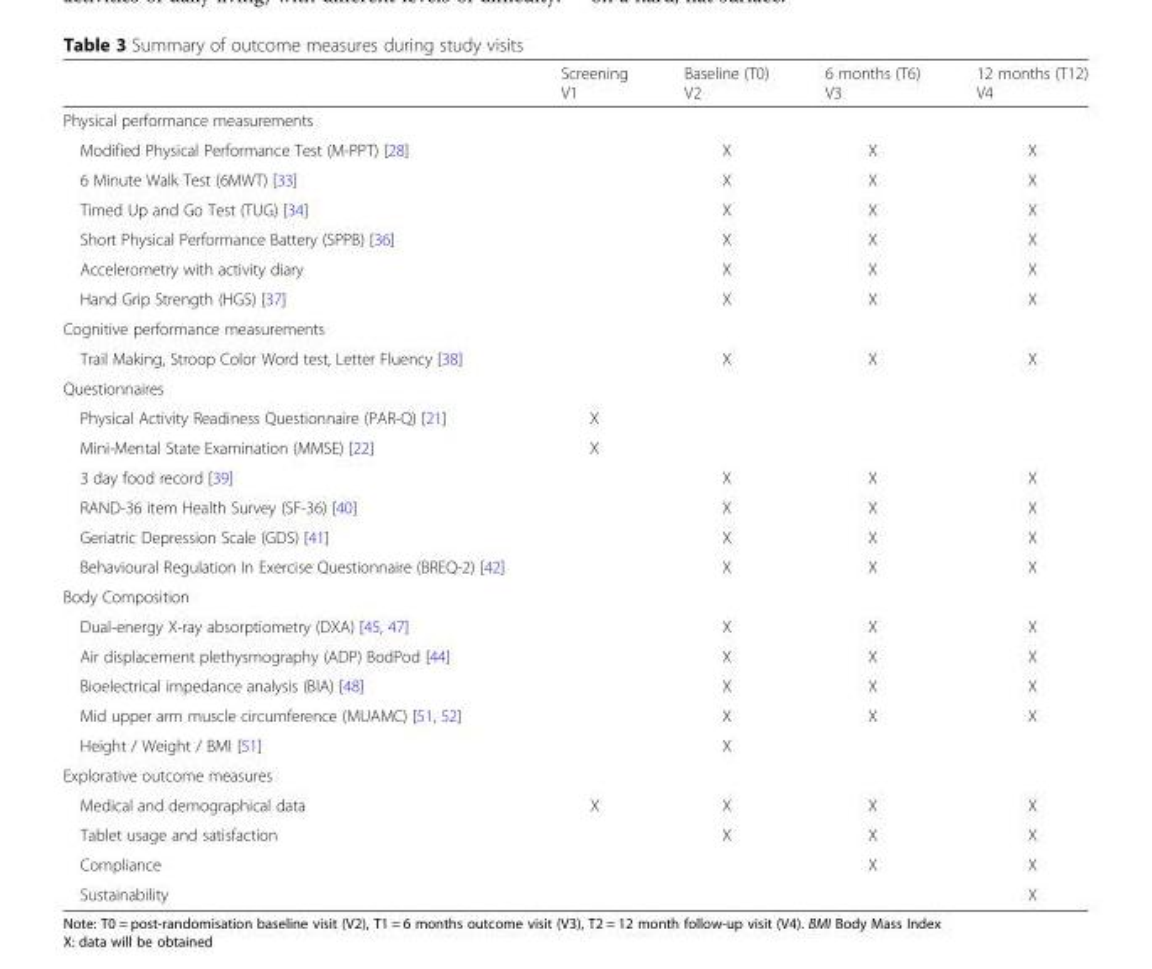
<table><thead><tr><td></td><td>Screening V1</td><td>Baseline (T0) V2</td><td>6 months (T6) V3</td><td>12 months (T12) V4</td></tr></thead><tbody><tr><td colspan="5">Physical performance measurements</td></tr><tr><td>Modified Physical Performance Test (M-PPT) [28]</td><td></td><td>X</td><td>X</td><td>X</td></tr><tr><td>6 Minute Walk Test (6MWT) [33]</td><td></td><td>X</td><td>X</td><td>X</td></tr><tr><td>Timed Up and Go Test (TUG) [34]</td><td></td><td>X</td><td>X</td><td>X</td></tr><tr><td>Short Physical Performance Battery (SPPB) [36]</td><td></td><td>X</td><td>X</td><td>X</td></tr><tr><td>Accelerometry with activity diary</td><td></td><td>X</td><td>X</td><td>X</td></tr><tr><td>Hand Grip Strength (HGS) [37]</td><td></td><td>X</td><td>X</td><td>X</td></tr><tr><td colspan="5">Cognitive performance measurements</td></tr><tr><td>Trail Making, Stroop Color Word test, Letter Fluency [38]</td><td></td><td>X</td><td>X</td><td>X</td></tr><tr><td colspan="5">Questionnaires</td></tr><tr><td>Physical Activity Readiness Questionnaire (PAR-Q) [21]</td><td>X</td><td></td><td></td><td></td></tr><tr><td>Mini-Mental State Examination (MMSE) [22]</td><td>X</td><td></td><td></td><td></td></tr><tr><td>3 day food record [39]</td><td></td><td>X</td><td>X</td><td>X</td></tr><tr><td>RAND-36 item Health Survey (SF-36) [40]</td><td></td><td>X</td><td>X</td><td>X</td></tr><tr><td>Geriatric Depression Scale (GDS) [41]</td><td></td><td>X</td><td>X</td><td>X</td></tr><tr><td>Behavioural Regulation In Exercise Questionnaire (BREQ-2) [42]</td><td></td><td>X</td><td>X</td><td>X</td></tr><tr><td colspan="5">Body Composition</td></tr><tr><td>Dual-energy X-ray absorptiometry (DXA) [45, 47]</td><td></td><td>X</td><td>X</td><td>X</td></tr><tr><td>Air displacement plethysmography (ADP) BodPod [44]</td><td></td><td>X</td><td>X</td><td>X</td></tr><tr><td>Bioelectrical impedance analysis (BIA) [48]</td><td></td><td>X</td><td>X</td><td>X</td></tr><tr><td>Mid upper arm muscle circumference (MUAMC) [51, 52]</td><td></td><td>X</td><td>X</td><td>X</td></tr><tr><td>Height / Weight / BMI [51]</td><td></td><td>X</td><td></td><td></td></tr><tr><td colspan="5">Explorative outcome measures</td></tr><tr><td>Medical and demographical data</td><td>X</td><td>X</td><td>X</td><td>X</td></tr><tr><td>Tablet usage and satisfaction</td><td></td><td>X</td><td>X</td><td>X</td></tr><tr><td>Compliance</td><td></td><td></td><td>X</td><td>X</td></tr><tr><td>Sustainability</td><td></td><td></td><td></td><td>X</td></tr></tbody></table>